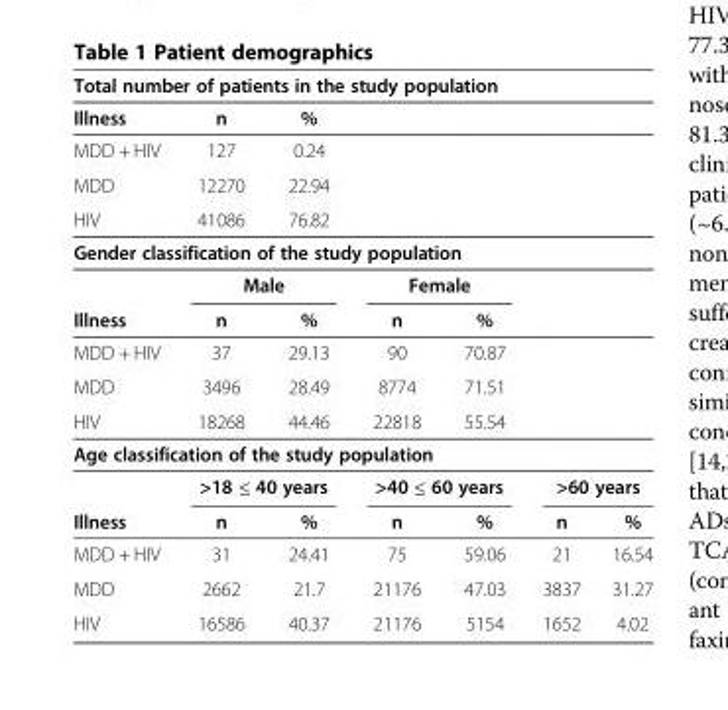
<table><thead><tr><td colspan="7">Total number of patients in the study population</td></tr><tr><td>Illness</td><td>n</td><td>%</td><td></td><td></td><td></td><td></td></tr></thead><tbody><tr><td>MDD + HIV</td><td>127</td><td>0.24</td><td></td><td></td><td></td><td></td></tr><tr><td>MDD</td><td>12270</td><td>22.94</td><td></td><td></td><td></td><td></td></tr><tr><td>HIV</td><td>41086</td><td>76.82</td><td></td><td></td><td></td><td></td></tr><tr><td colspan="7">Gender classification of the study population</td></tr><tr><td></td><td colspan="2">Male</td><td colspan="2">Female</td><td></td><td></td></tr><tr><td>Illness</td><td>n</td><td>%</td><td>n</td><td>%</td><td></td><td></td></tr><tr><td>MDD + HIV</td><td>37</td><td>29.13</td><td>90</td><td>70.87</td><td></td><td></td></tr><tr><td>MDD</td><td>3496</td><td>28.49</td><td>8774</td><td>71.51</td><td></td><td></td></tr><tr><td>HIV</td><td>18268</td><td>44.46</td><td>22818</td><td>55.54</td><td></td><td></td></tr><tr><td colspan="7">Age classification of the study population</td></tr><tr><td></td><td colspan="2">&gt;18 ≤ 40 years</td><td colspan="2">&gt;40 ≤ 60 years</td><td colspan="2">&gt;60 years</td></tr><tr><td>Illness</td><td>n</td><td>%</td><td>n</td><td>%</td><td>n</td><td>%</td></tr><tr><td>MDD + HIV</td><td>31</td><td>24.41</td><td>75</td><td>59.06</td><td>21</td><td>16.54</td></tr><tr><td>MDD</td><td>2662</td><td>21.7</td><td>21176</td><td>47.03</td><td>3837</td><td>31.27</td></tr><tr><td>HIV</td><td>16586</td><td>40.37</td><td>21176</td><td>5154</td><td>1652</td><td>4.02</td></tr></tbody></table>